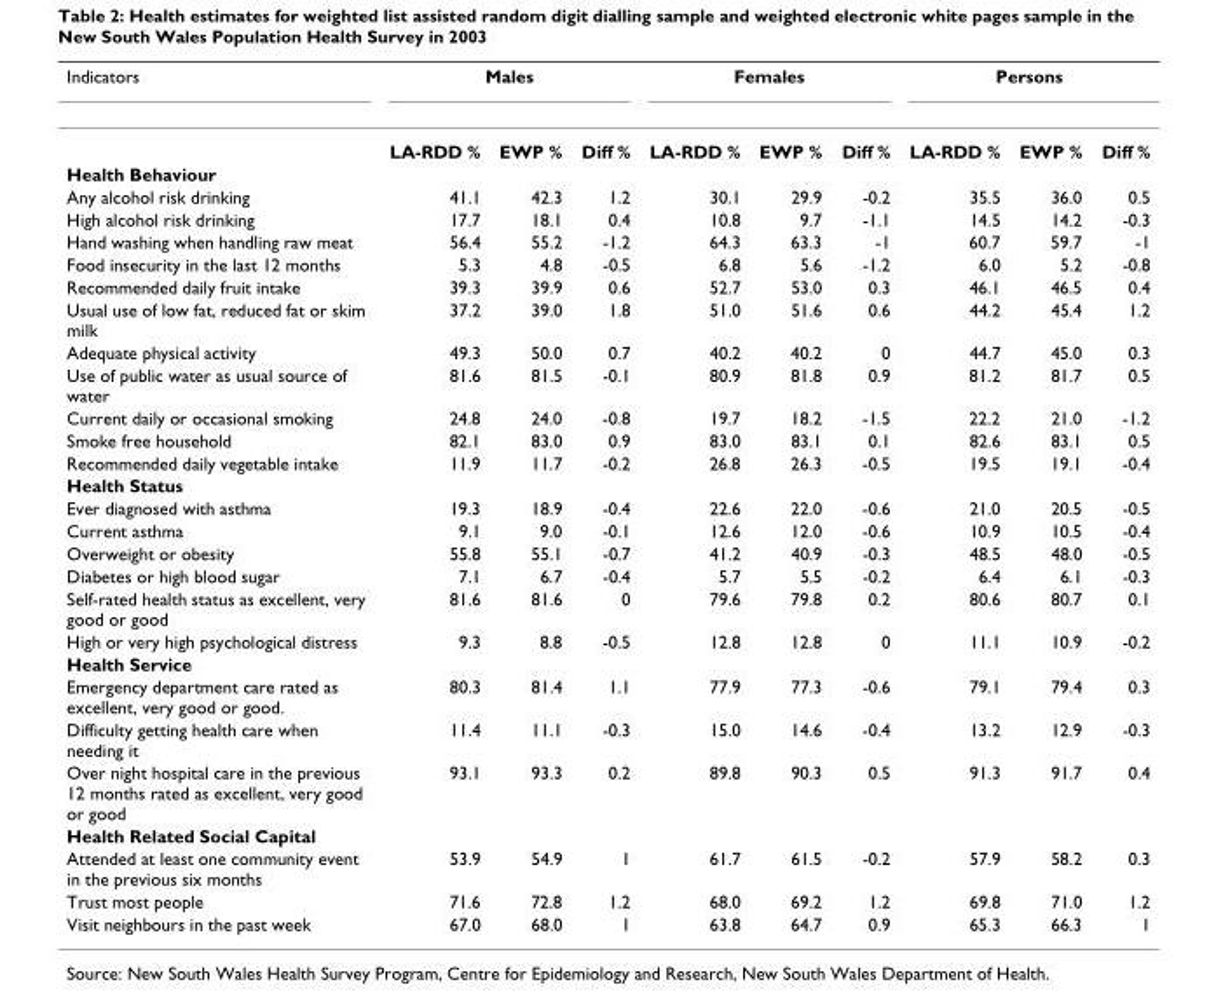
<table><thead><tr><td rowspan="2">Indicators</td><td colspan="3">Males</td><td colspan="3">Females</td><td colspan="3">Persons</td></tr><tr><td>LA-RDD %</td><td>EWP %</td><td>Diff %</td><td>LA-RDD %</td><td>EWP %</td><td>Diff %</td><td>LA-RDD %</td><td>EWP %</td><td>Diff %</td></tr></thead><tbody><tr><td colspan="10">Health Behaviour</td></tr><tr><td>Any alcohol risk drinking</td><td>41.1</td><td>42.3</td><td>1.2</td><td>30.1</td><td>29.9</td><td>-0.2</td><td>35.5</td><td>36.0</td><td>0.5</td></tr><tr><td>High alcohol risk drinking</td><td>17.7</td><td>18.1</td><td>0.4</td><td>10.8</td><td>9.7</td><td>-1.1</td><td>14.5</td><td>14.2</td><td>-0.3</td></tr><tr><td>Hand washing when handling raw meat</td><td>56.4</td><td>55.2</td><td>-1.2</td><td>64.3</td><td>63.3</td><td>-1</td><td>60.7</td><td>59.7</td><td>-1</td></tr><tr><td>Food insecurity in the last 12 months</td><td>5.3</td><td>4.8</td><td>-0.5</td><td>6.8</td><td>5.6</td><td>-1.2</td><td>6.0</td><td>5.2</td><td>-0.8</td></tr><tr><td>Recommended daily fruit intake</td><td>39.3</td><td>39.9</td><td>0.6</td><td>52.7</td><td>53.0</td><td>0.3</td><td>46.1</td><td>46.5</td><td>0.4</td></tr><tr><td>Usual use of low fat, reduced fat or skim milk</td><td>37.2</td><td>39.0</td><td>1.8</td><td>51.0</td><td>51.6</td><td>0.6</td><td>44.2</td><td>45.4</td><td>1.2</td></tr><tr><td>Adequate physical activity</td><td>49.3</td><td>50.0</td><td>0.7</td><td>40.2</td><td>40.2</td><td>0</td><td>44.7</td><td>45.0</td><td>0.3</td></tr><tr><td>Use of public water as usual source of water</td><td>81.6</td><td>81.5</td><td>-0.1</td><td>80.9</td><td>81.8</td><td>0.9</td><td>81.2</td><td>81.7</td><td>0.5</td></tr><tr><td>Current daily or occasional smoking</td><td>24.8</td><td>24.0</td><td>-0.8</td><td>19.7</td><td>18.2</td><td>-1.5</td><td>22.2</td><td>21.0</td><td>-1.2</td></tr><tr><td>Smoke free household</td><td>82.1</td><td>83.0</td><td>0.9</td><td>83.0</td><td>83.1</td><td>0.1</td><td>82.6</td><td>83.1</td><td>0.5</td></tr><tr><td>Recommended daily vegetable intake</td><td>11.9</td><td>11.7</td><td>-0.2</td><td>26.8</td><td>26.3</td><td>-0.5</td><td>19.5</td><td>19.1</td><td>-0.4</td></tr><tr><td colspan="10">Health Status</td></tr><tr><td>Ever diagnosed with asthma</td><td>19.3</td><td>18.9</td><td>-0.4</td><td>22.6</td><td>22.0</td><td>-0.6</td><td>21.0</td><td>20.5</td><td>-0.5</td></tr><tr><td>Current asthma</td><td>9.1</td><td>9.0</td><td>-0.1</td><td>12.6</td><td>12.0</td><td>-0.6</td><td>10.9</td><td>10.5</td><td>-0.4</td></tr><tr><td>Overweight or obesity</td><td>55.8</td><td>55.1</td><td>-0.7</td><td>41.2</td><td>40.9</td><td>-0.3</td><td>48.5</td><td>48.0</td><td>-0.5</td></tr><tr><td>Diabetes or high blood sugar</td><td>7.1</td><td>6.7</td><td>-0.4</td><td>5.7</td><td>5.5</td><td>-0.2</td><td>6.4</td><td>6.1</td><td>-0.3</td></tr><tr><td>Self-rated health status as excellent, very good or good</td><td>81.6</td><td>81.6</td><td>0</td><td>79.6</td><td>79.8</td><td>0.2</td><td>80.6</td><td>80.7</td><td>0.1</td></tr><tr><td>High or very high psychological distress</td><td>9.3</td><td>8.8</td><td>-0.5</td><td>12.8</td><td>12.8</td><td>0</td><td>11.1</td><td>10.9</td><td>-0.2</td></tr><tr><td colspan="10">Health Service</td></tr><tr><td>Emergency department care rated as excellent, very good or good.</td><td>80.3</td><td>81.4</td><td>1.1</td><td>77.9</td><td>77.3</td><td>-0.6</td><td>79.1</td><td>79.4</td><td>0.3</td></tr><tr><td>Difficulty getting health care when needing it</td><td>11.4</td><td>11.1</td><td>-0.3</td><td>15.0</td><td>14.6</td><td>-0.4</td><td>13.2</td><td>12.9</td><td>-0.3</td></tr><tr><td>Over night hospital care in the previous 12 months rated as excellent, very good or good</td><td>93.1</td><td>93.3</td><td>0.2</td><td>89.8</td><td>90.3</td><td>0.5</td><td>91.3</td><td>91.7</td><td>0.4</td></tr><tr><td colspan="10">Health Related Social Capital</td></tr><tr><td>Attended at least one community event in the previous six months</td><td>53.9</td><td>54.9</td><td>1</td><td>61.7</td><td>61.5</td><td>-0.2</td><td>57.9</td><td>58.2</td><td>0.3</td></tr><tr><td>Trust most people</td><td>71.6</td><td>72.8</td><td>1.2</td><td>68.0</td><td>69.2</td><td>1.2</td><td>69.8</td><td>71.0</td><td>1.2</td></tr><tr><td>Visit neighbours in the past week</td><td>67.0</td><td>68.0</td><td>1</td><td>63.8</td><td>64.7</td><td>0.9</td><td>65.3</td><td>66.3</td><td>1</td></tr></tbody></table>